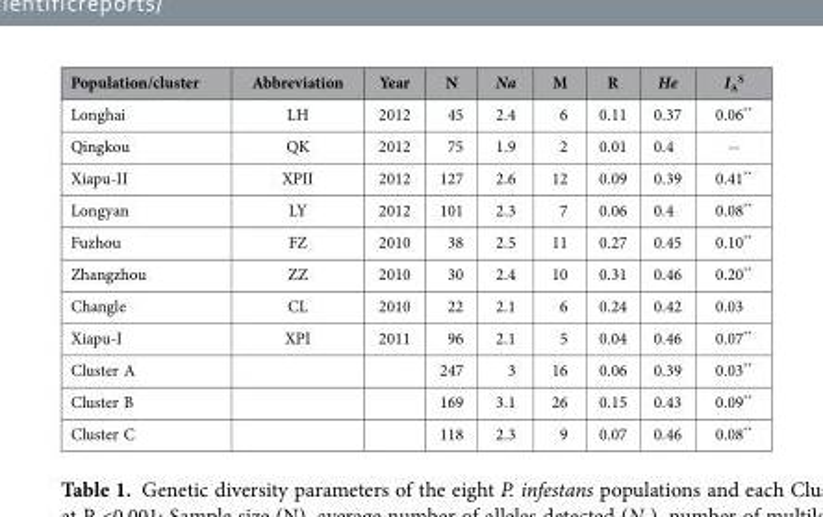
<table><thead><tr><td>Population/cluster</td><td>Abbreviation</td><td>Year</td><td>N</td><td>Na</td><td>M</td><td>R</td><td>He</td><td>I<sub>A</sub> <sup>S</sup></td></tr></thead><tbody><tr><td>Longhai</td><td>LH</td><td>2012</td><td>45</td><td>2.4</td><td>6</td><td>0.11</td><td>0.37</td><td>0.06**</td></tr><tr><td>Qingkou</td><td>QK</td><td>2012</td><td>75</td><td>1.9</td><td>2</td><td>0.01</td><td>0.4</td><td>--</td></tr><tr><td>Xiapu-II</td><td>XPII</td><td>2012</td><td>127</td><td>2.6</td><td>12</td><td>0.09</td><td>0.39</td><td>0.41**</td></tr><tr><td>Longyan</td><td>LY</td><td>2012</td><td>101</td><td>2.3</td><td>7</td><td>0.06</td><td>0.4</td><td>0.08**</td></tr><tr><td>Fuzhou</td><td>FZ</td><td>2010</td><td>38</td><td>2.5</td><td>11</td><td>0.27</td><td>0.45</td><td>0.10**</td></tr><tr><td>Zhangzhou</td><td>ZZ</td><td>2010</td><td>30</td><td>2.4</td><td>10</td><td>0.31</td><td>0.46</td><td>0.20**</td></tr><tr><td>Changle</td><td>CL</td><td>2010</td><td>22</td><td>2.1</td><td>6</td><td>0.24</td><td>0.42</td><td>0.03</td></tr><tr><td>Xiapu-I</td><td>XPI</td><td>2011</td><td>96</td><td>2.1</td><td>5</td><td>0.04</td><td>0.46</td><td>0.07**</td></tr><tr><td>Cluster A</td><td></td><td></td><td>247</td><td>3</td><td>16</td><td>0.06</td><td>0.39</td><td>0.03**</td></tr><tr><td>Cluster B</td><td></td><td></td><td>169</td><td>3.1</td><td>26</td><td>0.15</td><td>0.43</td><td>0.09**</td></tr><tr><td>Cluster C</td><td></td><td></td><td>118</td><td>2.3</td><td>9</td><td>0.07</td><td>0.46</td><td>0.08**</td></tr></tbody></table>